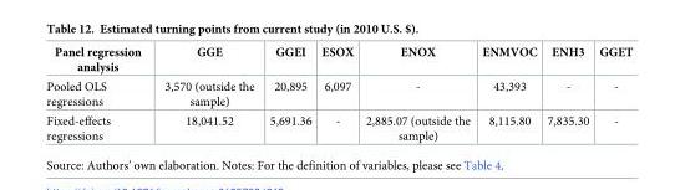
<table><thead><tr><td>Panel regression analysis</td><td>GGE</td><td>GGEI</td><td>ESOX</td><td>ENOX</td><td>ENMVOC</td><td>ENH3</td><td>GGET</td></tr></thead><tbody><tr><td>Pooled OLS regressions</td><td>3,570 (outside the sample)</td><td>20,895</td><td>6,097</td><td>-</td><td>43,393</td><td>-</td><td>-</td></tr><tr><td>Fixed-effects regressions</td><td>18,041.52</td><td>5,691.36</td><td>-</td><td>2,885.07 (outside the sample)</td><td>8,115.80</td><td>7,835.30</td><td>-</td></tr></tbody></table>